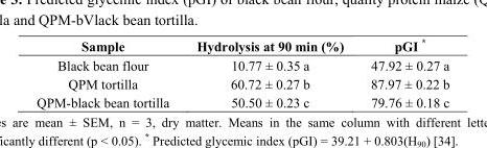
<table><thead><tr><td>Sample</td><td>Hydrolysis at 90 min (%)</td><td>pGI *</td></tr></thead><tbody><tr><td>Black bean flour</td><td>10.77 ± 0.35 a</td><td>47.92 ± 0.27 a</td></tr><tr><td>QPM tortilla</td><td>60.72 ± 0.27 b</td><td>87.97 ± 0.22 b</td></tr><tr><td>QPM-black bean tortilla</td><td>50.50 ± 0.23 c</td><td>79.76 ± 0.18 c</td></tr></tbody></table>